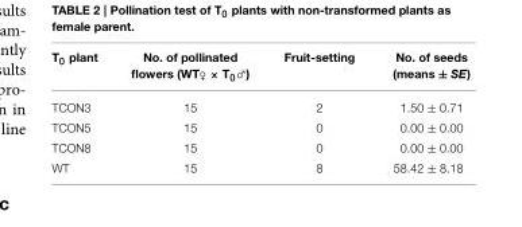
<table><thead><tr><td>T<sub>0</sub> plant</td><td>No. of pollinated flowers (WT♀ × T<sub>0</sub>♂)</td><td>Fruit-setting</td><td>No. of seeds (means ± SE)</td></tr></thead><tbody><tr><td>TCON3</td><td>15</td><td>2</td><td>1.50 ± 0.71</td></tr><tr><td>TCON5</td><td>15</td><td>0</td><td>0.00 ± 0.00</td></tr><tr><td>TCON8</td><td>15</td><td>0</td><td>0.00 ± 0.00</td></tr><tr><td>WT</td><td>15</td><td>8</td><td>58.42 ± 8.18</td></tr></tbody></table>